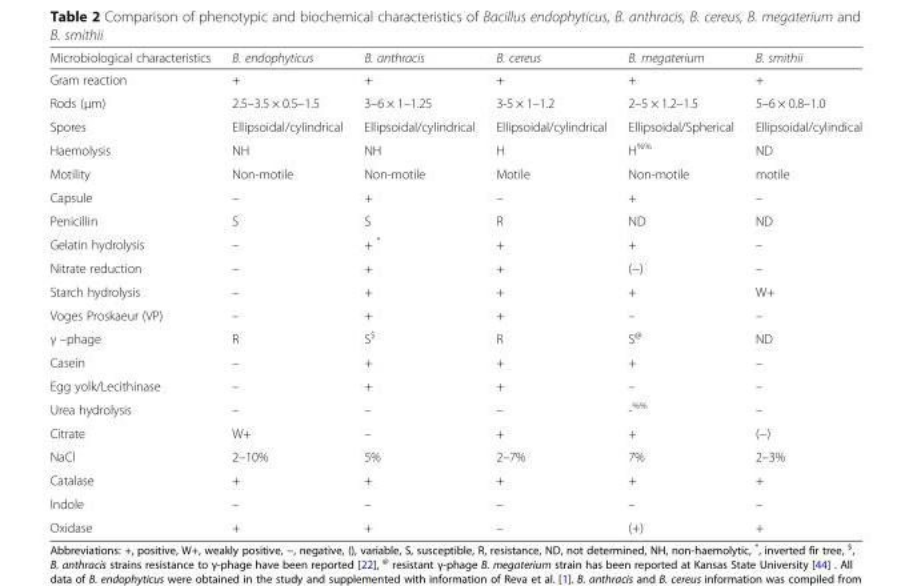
<table><thead><tr><td>Microbiological characteristics</td><td>B. endophyticus</td><td>B. anthracis</td><td>B. cereus</td><td>B. megaterium</td><td>B. smithii</td></tr></thead><tbody><tr><td>Gram reaction</td><td>+</td><td>+</td><td>+</td><td>+</td><td>+</td></tr><tr><td>Rods (μm)</td><td>2.5–3.5 × 0.5–1.5</td><td>3–6 × 1–1.25</td><td>3-5 × 1–1.2</td><td>2–5 × 1.2–1.5</td><td>5–6 × 0.8–1.0</td></tr><tr><td>Spores</td><td>Ellipsoidal/cylindrical</td><td>Ellipsoidal/cylindrical</td><td>Ellipsoidal/cylindrical</td><td>Ellipsoidal/Spherical</td><td>Ellipsoidal/cylindical</td></tr><tr><td>Haemolysis</td><td>NH</td><td>NH</td><td>H</td><td>H<sup>%%</sup></td><td>ND</td></tr><tr><td>Motility</td><td>Non-motile</td><td>Non-motile</td><td>Motile</td><td>Non-motile</td><td>motile</td></tr><tr><td>Capsule</td><td>–</td><td>+</td><td>–</td><td>+</td><td>–</td></tr><tr><td>Penicillin</td><td>S</td><td>S</td><td>R</td><td>ND</td><td>ND</td></tr><tr><td>Gelatin hydrolysis</td><td>–</td><td>+ *</td><td>+</td><td>+</td><td>–</td></tr><tr><td>Nitrate reduction</td><td>–</td><td>+</td><td>+</td><td>(−)</td><td>–</td></tr><tr><td>Starch hydrolysis</td><td>–</td><td>+</td><td>+</td><td>+</td><td>W+</td></tr><tr><td>Voges Proskaeur (VP)</td><td>–</td><td>+</td><td>+</td><td>–</td><td>–</td></tr><tr><td>γ –phage</td><td>R</td><td>S<sup>$</sup></td><td>R</td><td>S<sup>@</sup></td><td>ND</td></tr><tr><td>Casein</td><td>–</td><td>+</td><td>+</td><td>+</td><td>–</td></tr><tr><td>Egg yolk/Lecithinase</td><td>–</td><td>+</td><td>+</td><td>–</td><td>–</td></tr><tr><td>Urea hydrolysis</td><td>–</td><td>–</td><td>–</td><td>-<sup>%%</sup></td><td>–</td></tr><tr><td>Citrate</td><td>W+</td><td>–</td><td>+</td><td>+</td><td>(−)</td></tr><tr><td>NaCl</td><td>2–10%</td><td>5%</td><td>2–7%</td><td>7%</td><td>2–3%</td></tr><tr><td>Catalase</td><td>+</td><td>+</td><td>+</td><td>+</td><td>+</td></tr><tr><td>Indole</td><td>–</td><td>–</td><td>–</td><td>–</td><td>–</td></tr><tr><td>Oxidase</td><td>+</td><td>+</td><td>–</td><td>(+)</td><td>+</td></tr></tbody></table>